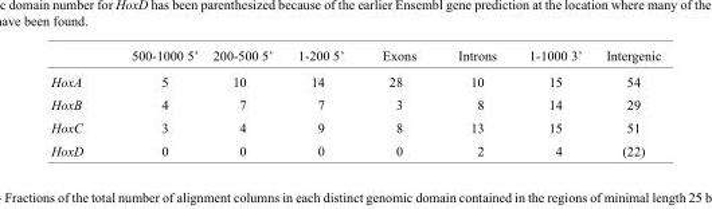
<table><thead><tr><td></td><td>500-1000 5’</td><td>200-500 5’</td><td>1-200 5’</td><td>Exons</td><td>Introns</td><td>1-1000 3’</td><td>Intergenic</td></tr></thead><tbody><tr><td>HoxA</td><td>5</td><td>10</td><td>14</td><td>28</td><td>10</td><td>15</td><td>54</td></tr><tr><td>HoxB</td><td>4</td><td>7</td><td>7</td><td>3</td><td>8</td><td>14</td><td>29</td></tr><tr><td>HoxC</td><td>3</td><td>4</td><td>9</td><td>8</td><td>13</td><td>15</td><td>51</td></tr><tr><td>HoxD</td><td>0</td><td>0</td><td>0</td><td>0</td><td>2</td><td>4</td><td>(22)</td></tr></tbody></table>